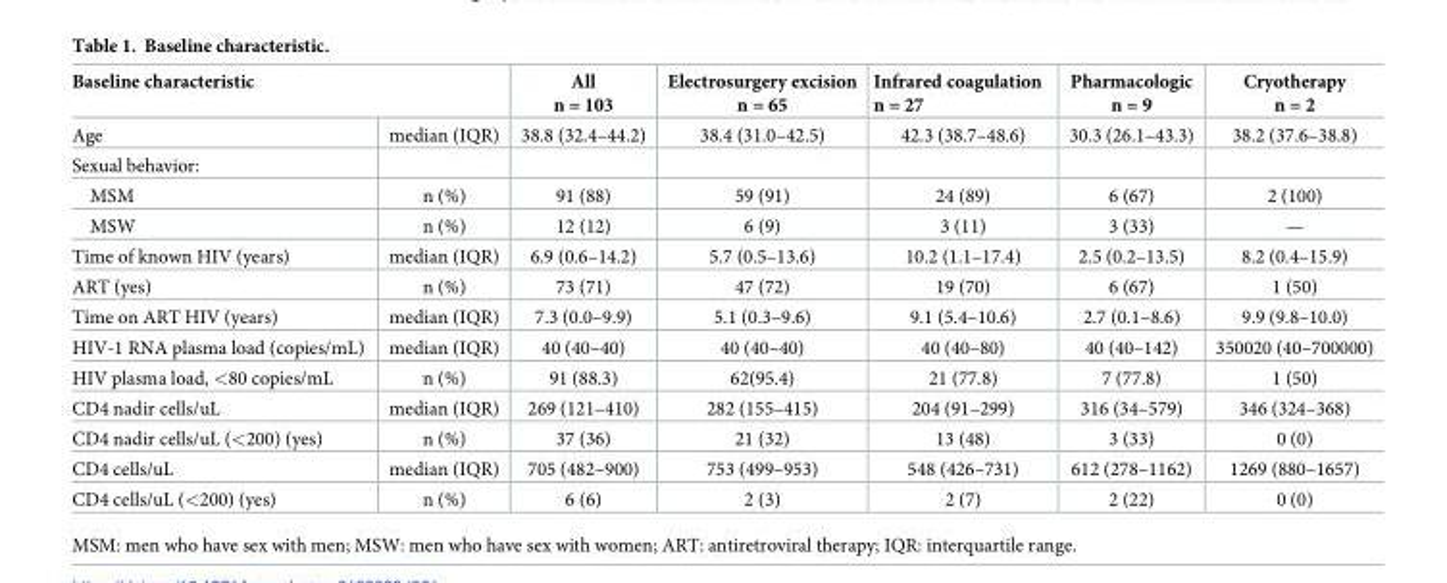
<table><thead><tr><td colspan="2">Baseline characteristic</td><td rowspan="2">All n = 103 38.8 (32.4–44.2)</td><td rowspan="2">Electrosurgery excision n = 65 38.4 (31.0–42.5)</td><td rowspan="2">Infrared coagulation n = 27 42.3 (38.7–48.6)</td><td rowspan="2">Pharmacologic n = 9 30.3 (26.1–43.3)</td><td rowspan="2">Cryotherapy n = 2 38.2 (37.6–38.8)</td></tr><tr><td>Age</td><td>median (IQR)</td></tr></thead><tbody><tr><td colspan="7">Sexual behavior:</td></tr><tr><td>MSM</td><td>n (%)</td><td>91 (88)</td><td>59 (91)</td><td>24 (89)</td><td>6 (67)</td><td>2 (100)</td></tr><tr><td>MSW</td><td>n (%)</td><td>12 (12)</td><td>6 (9)</td><td>3 (11)</td><td>3 (33)</td><td>—</td></tr><tr><td>Time of known HIV (years)</td><td>median (IQR)</td><td>6.9 (0.6–14.2)</td><td>5.7 (0.5–13.6)</td><td>10.2 (1.1–17.4)</td><td>2.5 (0.2–13.5)</td><td>8.2 (0.4–15.9)</td></tr><tr><td>ART (yes)</td><td>n (%)</td><td>73 (71)</td><td>47 (72)</td><td>19 (70)</td><td>6 (67)</td><td>1 (50)</td></tr><tr><td>Time on ART HIV (years)</td><td>median (IQR)</td><td>7.3 (0.0–9.9)</td><td>5.1 (0.3–9.6)</td><td>9.1 (5.4–10.6)</td><td>2.7 (0.1–8.6)</td><td>9.9 (9.8–10.0)</td></tr><tr><td>HIV-1 RNA plasma load (copies/mL)</td><td>median (IQR)</td><td>40 (40–40)</td><td>40 (40–40)</td><td>40 (40–80)</td><td>40 (40–142)</td><td>350020 (40–700000)</td></tr><tr><td>HIV plasma load, &lt;80 copies/mL</td><td>n (%)</td><td>91 (88.3)</td><td>62(95.4)</td><td>21 (77.8)</td><td>7 (77.8)</td><td>1 (50)</td></tr><tr><td>CD4 nadir cells/uL</td><td>median (IQR)</td><td>269 (121–410)</td><td>282 (155–415)</td><td>204 (91–299)</td><td>316 (34–579)</td><td>346 (324–368)</td></tr><tr><td>CD4 nadir cells/uL (&lt;200) (yes)</td><td>n (%)</td><td>37 (36)</td><td>21 (32)</td><td>13 (48)</td><td>3 (33)</td><td>0 (0)</td></tr><tr><td>CD4 cells/uL</td><td>median (IQR)</td><td>705 (482–900)</td><td>753 (499–953)</td><td>548 (426–731)</td><td>612 (278–1162)</td><td>1269 (880–1657)</td></tr><tr><td>CD4 cells/uL (&lt;200) (yes)</td><td>n (%)</td><td>6 (6)</td><td>2 (3)</td><td>2 (7)</td><td>2 (22)</td><td>0 (0)</td></tr></tbody></table>